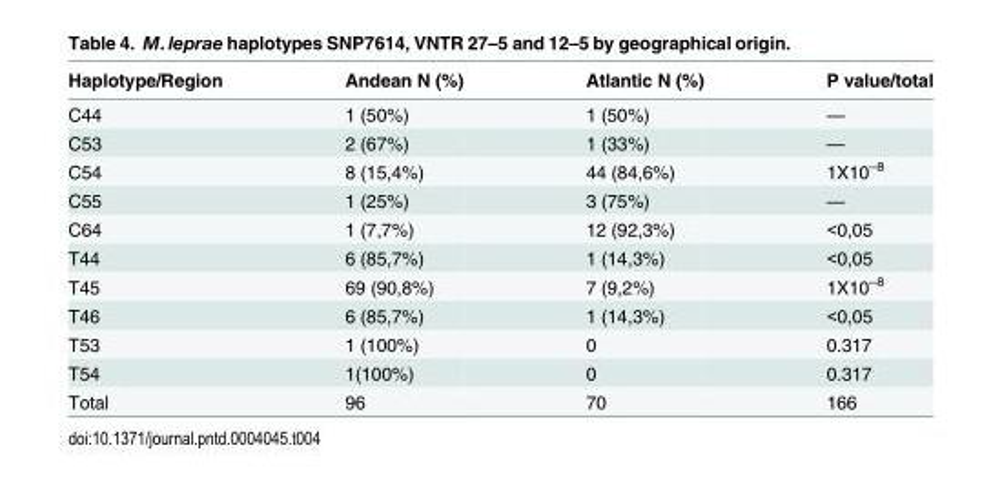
<table><thead><tr><td>Haplotype/Region</td><td>Andean N (%)</td><td>Atlantic N (%)</td><td>P value/total</td></tr></thead><tbody><tr><td>C44</td><td>1 (50%)</td><td>1 (50%)</td><td>—</td></tr><tr><td>C53</td><td>2 (67%)</td><td>1 (33%)</td><td>—</td></tr><tr><td>C54</td><td>8 (15,4%)</td><td>44 (84,6%)</td><td>1X10<sup>–8</sup></td></tr><tr><td>C55</td><td>1 (25%)</td><td>3 (75%)</td><td>—</td></tr><tr><td>C64</td><td>1 (7,7%)</td><td>12 (92,3%)</td><td>&lt;0,05</td></tr><tr><td>T44</td><td>6 (85,7%)</td><td>1 (14,3%)</td><td>&lt;0,05</td></tr><tr><td>T45</td><td>69 (90,8%)</td><td>7 (9,2%)</td><td>1X10<sup>–8</sup></td></tr><tr><td>T46</td><td>6 (85,7%)</td><td>1 (14,3%)</td><td>&lt;0,05</td></tr><tr><td>T53</td><td>1 (100%)</td><td>0</td><td>0.317</td></tr><tr><td>T54</td><td>1(100%)</td><td>0</td><td>0.317</td></tr><tr><td>Total</td><td>96</td><td>70</td><td>166</td></tr></tbody></table>